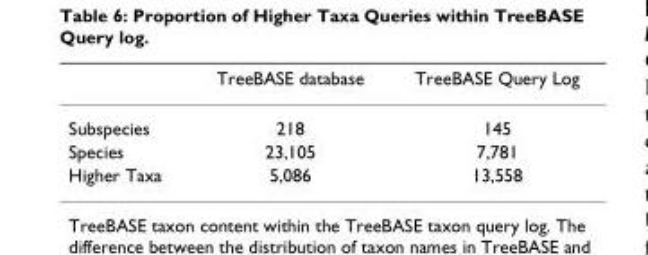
<table><thead><tr><td></td><td>TreeBASE database</td><td>TreeBASE Query Log</td></tr></thead><tbody><tr><td>Subspecies</td><td>218</td><td>145</td></tr><tr><td>Species</td><td>23,105</td><td>7,781</td></tr><tr><td>Higher Taxa</td><td>5,086</td><td>13,558</td></tr></tbody></table>